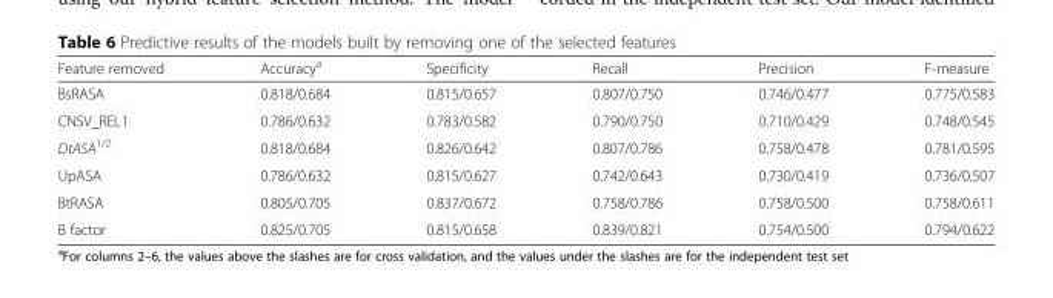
<table><thead><tr><td>Feature removed</td><td>Accuracy<sup>a</sup></td><td>Specificity</td><td>Recall</td><td>Precision</td><td>F-measure</td></tr></thead><tbody><tr><td>BsRASA</td><td>0.818/0.684</td><td>0.815/0.657</td><td>0.807/0.750</td><td>0.746/0.477</td><td>0.775/0.583</td></tr><tr><td>CNSV_REL1</td><td>0.786/0.632</td><td>0.783/0.582</td><td>0.790/0.750</td><td>0.710/0.429</td><td>0.748/0.545</td></tr><tr><td>DtASA<sup>1/2</sup></td><td>0.818/0.684</td><td>0.826/0.642</td><td>0.807/0.786</td><td>0.758/0.478</td><td>0.781/0.595</td></tr><tr><td>UpASA</td><td>0.786/0.632</td><td>0.815/0.627</td><td>0.742/0.643</td><td>0.730/0.419</td><td>0.736/0.507</td></tr><tr><td>BtRASA</td><td>0.805/0.705</td><td>0.837/0.672</td><td>0.758/0.786</td><td>0.758/0.500</td><td>0.758/0.611</td></tr><tr><td>B factor</td><td>0.825/0.705</td><td>0.815/0.658</td><td>0.839/0.821</td><td>0.754/0.500</td><td>0.794/0.622</td></tr></tbody></table>